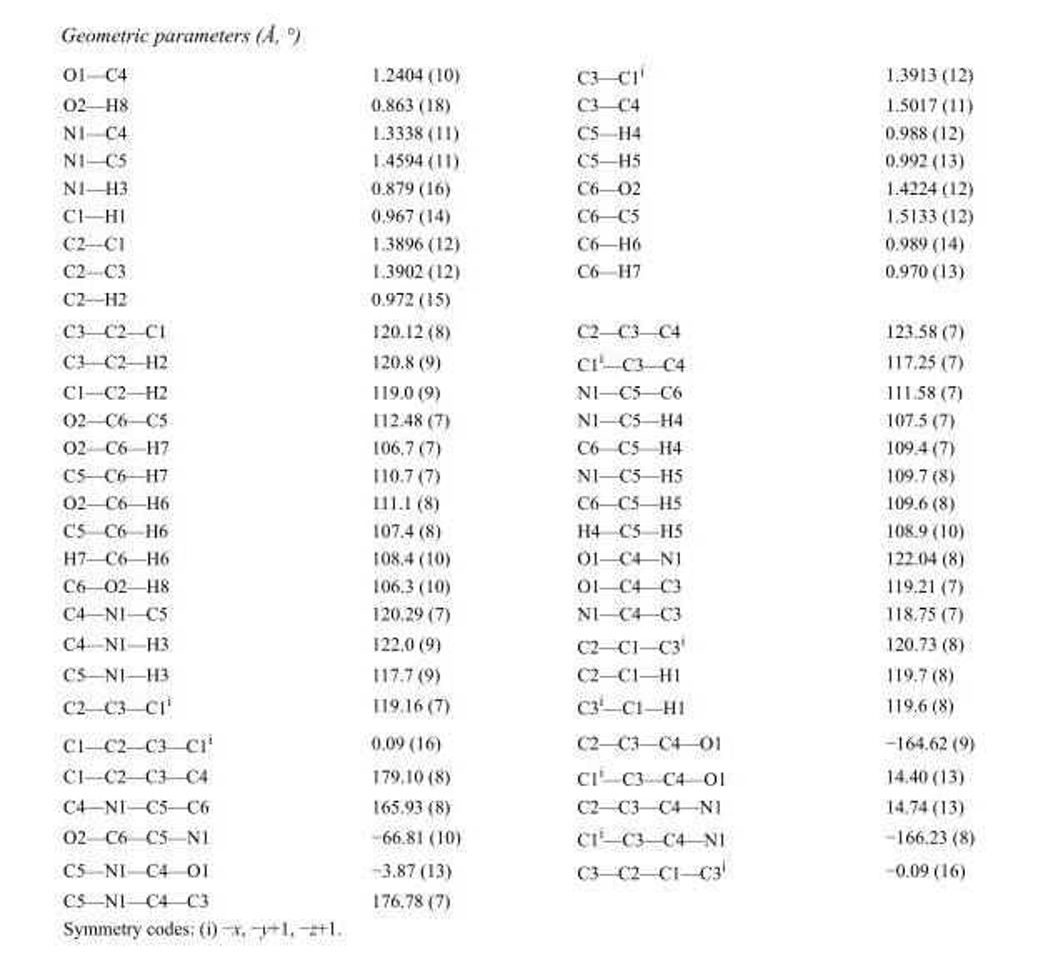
<table><tbody><tr><td>O1—C4</td><td>1.2404 (10)</td><td>C3—C1<sup>i</sup></td><td>1.3913 (12)</td></tr><tr><td>O2—H8</td><td>0.863 (18)</td><td>C3—C4</td><td>1.5017 (11)</td></tr><tr><td>N1—C4</td><td>1.3338 (11)</td><td>C5—H4</td><td>0.988 (12)</td></tr><tr><td>N1—C5</td><td>1.4594 (11)</td><td>C5—H5</td><td>0.992 (13)</td></tr><tr><td>N1—H3</td><td>0.879 (16)</td><td>C6—O2</td><td>1.4224 (12)</td></tr><tr><td>C1—H1</td><td>0.967 (14)</td><td>C6—C5</td><td>1.5133 (12)</td></tr><tr><td>C2—C1</td><td>1.3896 (12)</td><td>C6—H6</td><td>0.989 (14)</td></tr><tr><td>C2—C3</td><td>1.3902 (12)</td><td>C6—H7</td><td>0.970 (13)</td></tr><tr><td>C2—H2</td><td>0.972 (15)</td><td></td><td></td></tr><tr><td>C3—C2—C1</td><td>120.12 (8)</td><td>C2—C3—C4</td><td>123.58 (7)</td></tr><tr><td>C3—C2—H2</td><td>120.8 (9)</td><td>C1<sup>i</sup>—C3—C4</td><td>117.25 (7)</td></tr><tr><td>C1—C2—H2</td><td>119.0 (9)</td><td>N1—C5—C6</td><td>111.58 (7)</td></tr><tr><td>O2—C6—C5</td><td>112.48 (7)</td><td>N1—C5—H4</td><td>107.5 (7)</td></tr><tr><td>O2—C6—H7</td><td>106.7 (7)</td><td>C6—C5—H4</td><td>109.4 (7)</td></tr><tr><td>C5—C6—H7</td><td>110.7 (7)</td><td>N1—C5—H5</td><td>109.7 (8)</td></tr><tr><td>O2—C6—H6</td><td>111.1 (8)</td><td>C6—C5—H5</td><td>109.6 (8)</td></tr><tr><td>C5—C6—H6</td><td>107.4 (8)</td><td>H4—C5—H5</td><td>108.9 (10)</td></tr><tr><td>H7—C6—H6</td><td>108.4 (10)</td><td>O1—C4—N1</td><td>122.04 (8)</td></tr><tr><td>C6—O2—H8</td><td>106.3 (10)</td><td>O1—C4—C3</td><td>119.21 (7)</td></tr><tr><td>C4—N1—C5</td><td>120.29 (7)</td><td>N1—C4—C3</td><td>118.75 (7)</td></tr><tr><td>C4—N1—H3</td><td>122.0 (9)</td><td>C2—C1—C3<sup>i</sup></td><td>120.73 (8)</td></tr><tr><td>C5—N1—H3</td><td>117.7 (9)</td><td>C2—C1—H1</td><td>119.7 (8)</td></tr><tr><td>C2—C3—C1<sup>i</sup></td><td>119.16 (7)</td><td>C3<sup>i</sup>—C1—H1</td><td>119.6 (8)</td></tr><tr><td>C1—C2—C3—C1<sup>i</sup></td><td>0.09 (16)</td><td>C2—C3—C4—O1</td><td>−164.62 (9)</td></tr><tr><td>C1—C2—C3—C4</td><td>179.10 (8)</td><td>C1<sup>i</sup>—C3—C4—O1</td><td>14.40 (13)</td></tr><tr><td>C4—N1—C5—C6</td><td>165.93 (8)</td><td>C2—C3—C4—N1</td><td>14.74 (13)</td></tr><tr><td>O2—C6—C5—N1</td><td>−66.81 (10)</td><td>C1<sup>i</sup>—C3—C4—N1</td><td>−166.23 (8)</td></tr><tr><td>C5—N1—C4—O1</td><td>−3.87 (13)</td><td>C3—C2—C1—C3<sup>i</sup></td><td>−0.09 (16)</td></tr><tr><td>C5—N1—C4—C3</td><td>176.78 (7)</td><td></td><td></td></tr></tbody></table>